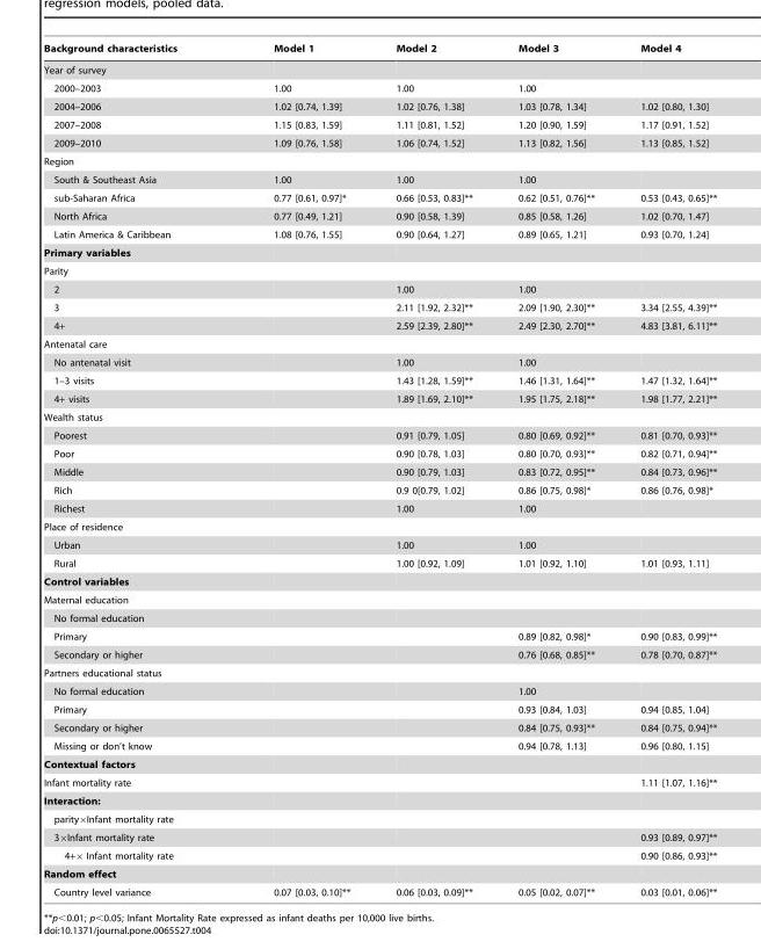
<table><thead><tr><td>Background characteristics</td><td>Model 1</td><td>Model 2</td><td>Model 3</td><td>Model 4</td></tr></thead><tbody><tr><td colspan="5">Year of survey</td></tr><tr><td>2000–2003</td><td>1.00</td><td>1.00</td><td>1.00</td><td></td></tr><tr><td>2004–2006</td><td>1.02 [0.74, 1.39]</td><td>1.02 [0.76, 1.38]</td><td>1.03 [0.78, 1.34]</td><td>1.02 [0.80, 1.30]</td></tr><tr><td>2007–2008</td><td>1.15 [0.83, 1.59]</td><td>1.11 [0.81, 1.52]</td><td>1.20 [0.90, 1.59]</td><td>1.17 [0.91, 1.52]</td></tr><tr><td>2009–2010</td><td>1.09 [0.76, 1.58]</td><td>1.06 [0.74, 1.52]</td><td>1.13 [0.82, 1.56]</td><td>1.13 [0.85, 1.52]</td></tr><tr><td colspan="5">Region</td></tr><tr><td>South &amp; Southeast Asia</td><td>1.00</td><td>1.00</td><td>1.00</td><td></td></tr><tr><td>sub-Saharan Africa</td><td>0.77 [0.61, 0.97]*</td><td>0.66 [0.53, 0.83]**</td><td>0.62 [0.51, 0.76]**</td><td>0.53 [0.43, 0.65]**</td></tr><tr><td>North Africa</td><td>0.77 [0.49, 1.21]</td><td>0.90 [0.58, 1.39]</td><td>0.85 [0.58, 1.26]</td><td>1.02 [0.70, 1.47]</td></tr><tr><td>Latin America &amp; Caribbean</td><td>1.08 [0.76, 1.55]</td><td>0.90 [0.64, 1.27]</td><td>0.89 [0.65, 1.21]</td><td>0.93 [0.70, 1.24]</td></tr><tr><td colspan="5">Primary variables</td></tr><tr><td colspan="5">Parity</td></tr><tr><td>2</td><td></td><td>1.00</td><td>1.00</td><td></td></tr><tr><td>3</td><td></td><td>2.11 [1.92, 2.32]**</td><td>2.09 [1.90, 2.30]**</td><td>3.34 [2.55, 4.39]**</td></tr><tr><td>4+</td><td></td><td>2.59 [2.39, 2.80]**</td><td>2.49 [2.30, 2.70]**</td><td>4.83 [3.81, 6.11]**</td></tr><tr><td colspan="5">Antenatal care</td></tr><tr><td>No antenatal visit</td><td></td><td>1.00</td><td>1.00</td><td></td></tr><tr><td>1–3 visits</td><td></td><td>1.43 [1.28, 1.59]**</td><td>1.46 [1.31, 1.64]**</td><td>1.47 [1.32, 1.64]**</td></tr><tr><td>4+ visits</td><td></td><td>1.89 [1.69, 2.10]**</td><td>1.95 [1.75, 2.18]**</td><td>1.98 [1.77, 2.21]**</td></tr><tr><td colspan="5">Wealth status</td></tr><tr><td>Poorest</td><td></td><td>0.91 [0.79, 1.05]</td><td>0.80 [0.69, 0.92]**</td><td>0.81 [0.70, 0.93]**</td></tr><tr><td>Poor</td><td></td><td>0.90 [0.78, 1.03]</td><td>0.80 [0.70, 0.93]**</td><td>0.82 [0.71, 0.94]**</td></tr><tr><td>Middle</td><td></td><td>0.90 [0.79, 1.03]</td><td>0.83 [0.72, 0.95]**</td><td>0.84 [0.73, 0.96]**</td></tr><tr><td>Rich</td><td></td><td>0.9 0[0.79, 1.02]</td><td>0.86 [0.75, 0.98]*</td><td>0.86 [0.76, 0.98]*</td></tr><tr><td>Richest</td><td></td><td>1.00</td><td>1.00</td><td></td></tr><tr><td colspan="5">Place of residence</td></tr><tr><td>Urban</td><td></td><td>1.00</td><td>1.00</td><td></td></tr><tr><td>Rural</td><td></td><td>1.00 [0.92, 1.09]</td><td>1.01 [0.92, 1.10]</td><td>1.01 [0.93, 1.11]</td></tr><tr><td colspan="5">Control variables</td></tr><tr><td colspan="5">Maternal education</td></tr><tr><td colspan="5">No formal education</td></tr><tr><td>Primary</td><td></td><td></td><td>0.89 [0.82, 0.98]*</td><td>0.90 [0.83, 0.99]**</td></tr><tr><td>Secondary or higher</td><td></td><td></td><td>0.76 [0.68, 0.85]**</td><td>0.78 [0.70, 0.87]**</td></tr><tr><td colspan="5">Partners educational status</td></tr><tr><td>No formal education</td><td></td><td></td><td>1.00</td><td></td></tr><tr><td>Primary</td><td></td><td></td><td>0.93 [0.84, 1.03]</td><td>0.94 [0.85, 1.04]</td></tr><tr><td>Secondary or higher</td><td></td><td></td><td>0.84 [0.75, 0.93]**</td><td>0.84 [0.75, 0.94]**</td></tr><tr><td>Missing or don’t know</td><td></td><td></td><td>0.94 [0.78, 1.13]</td><td>0.96 [0.80, 1.15]</td></tr><tr><td colspan="5">Contextual factors</td></tr><tr><td>Infant mortality rate</td><td></td><td></td><td></td><td>1.11 [1.07, 1.16]**</td></tr><tr><td colspan="5">Interaction:</td></tr><tr><td colspan="5">parity×Infant mortality rate</td></tr><tr><td>3×Infant mortality rate</td><td></td><td></td><td></td><td>0.93 [0.89, 0.97]**</td></tr><tr><td>4+× Infant mortality rate</td><td></td><td></td><td></td><td>0.90 [0.86, 0.93]**</td></tr><tr><td colspan="5">Random effect</td></tr><tr><td>Country level variance</td><td>0.07 [0.03, 0.10]**</td><td>0.06 [0.03, 0.09]**</td><td>0.05 [0.02, 0.07]**</td><td>0.03 [0.01, 0.06]**</td></tr></tbody></table>